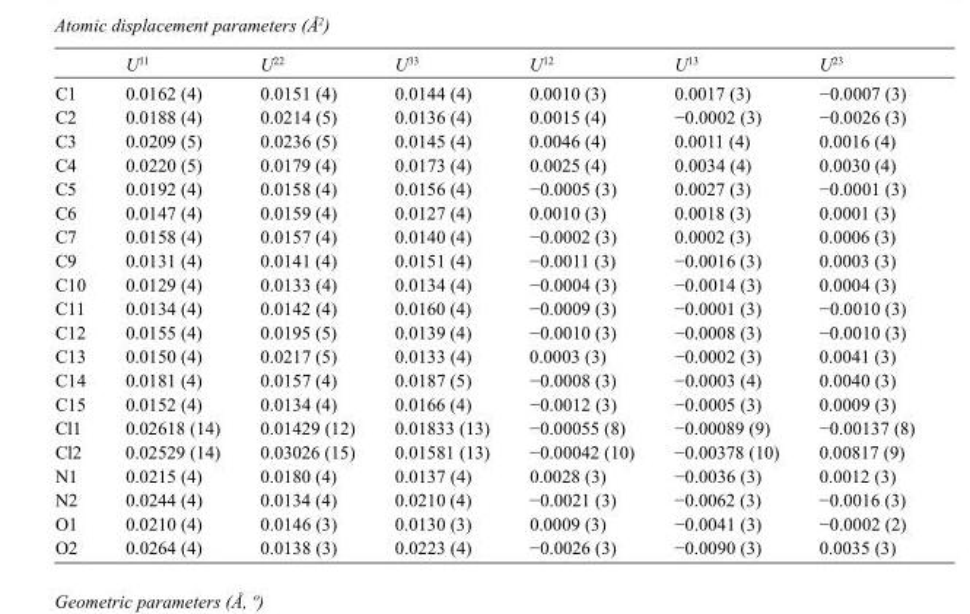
<table><thead><tr><td></td><td>U<sup>11</sup></td><td>U<sup>22</sup></td><td>U<sup>33</sup></td><td>U<sup>12</sup></td><td>U<sup>13</sup></td><td>U<sup>23</sup></td></tr></thead><tbody><tr><td>C1</td><td>0.0162 (4)</td><td>0.0151 (4)</td><td>0.0144 (4)</td><td>0.0010 (3)</td><td>0.0017 (3)</td><td>−0.0007 (3)</td></tr><tr><td>C2</td><td>0.0188 (4)</td><td>0.0214 (5)</td><td>0.0136 (4)</td><td>0.0015 (4)</td><td>−0.0002 (3)</td><td>−0.0026 (3)</td></tr><tr><td>C3</td><td>0.0209 (5)</td><td>0.0236 (5)</td><td>0.0145 (4)</td><td>0.0046 (4)</td><td>0.0011 (4)</td><td>0.0016 (4)</td></tr><tr><td>C4</td><td>0.0220 (5)</td><td>0.0179 (4)</td><td>0.0173 (4)</td><td>0.0025 (4)</td><td>0.0034 (4)</td><td>0.0030 (4)</td></tr><tr><td>C5</td><td>0.0192 (4)</td><td>0.0158 (4)</td><td>0.0156 (4)</td><td>−0.0005 (3)</td><td>0.0027 (3)</td><td>−0.0001 (3)</td></tr><tr><td>C6</td><td>0.0147 (4)</td><td>0.0159 (4)</td><td>0.0127 (4)</td><td>0.0010 (3)</td><td>0.0018 (3)</td><td>0.0001 (3)</td></tr><tr><td>C7</td><td>0.0158 (4)</td><td>0.0157 (4)</td><td>0.0140 (4)</td><td>−0.0002 (3)</td><td>0.0002 (3)</td><td>0.0006 (3)</td></tr><tr><td>C9</td><td>0.0131 (4)</td><td>0.0141 (4)</td><td>0.0151 (4)</td><td>−0.0011 (3)</td><td>−0.0016 (3)</td><td>0.0003 (3)</td></tr><tr><td>C10</td><td>0.0129 (4)</td><td>0.0133 (4)</td><td>0.0134 (4)</td><td>−0.0004 (3)</td><td>−0.0014 (3)</td><td>0.0004 (3)</td></tr><tr><td>C11</td><td>0.0134 (4)</td><td>0.0142 (4)</td><td>0.0160 (4)</td><td>−0.0009 (3)</td><td>−0.0001 (3)</td><td>−0.0010 (3)</td></tr><tr><td>C12</td><td>0.0155 (4)</td><td>0.0195 (5)</td><td>0.0139 (4)</td><td>−0.0010 (3)</td><td>−0.0008 (3)</td><td>−0.0010 (3)</td></tr><tr><td>C13</td><td>0.0150 (4)</td><td>0.0217 (5)</td><td>0.0133 (4)</td><td>0.0003 (3)</td><td>−0.0002 (3)</td><td>0.0041 (3)</td></tr><tr><td>C14</td><td>0.0181 (4)</td><td>0.0157 (4)</td><td>0.0187 (5)</td><td>−0.0008 (3)</td><td>−0.0003 (4)</td><td>0.0040 (3)</td></tr><tr><td>C15</td><td>0.0152 (4)</td><td>0.0134 (4)</td><td>0.0166 (4)</td><td>−0.0012 (3)</td><td>−0.0005 (3)</td><td>0.0009 (3)</td></tr><tr><td>Cl1</td><td>0.02618 (14)</td><td>0.01429 (12)</td><td>0.01833 (13)</td><td>−0.00055 (8)</td><td>−0.00089 (9)</td><td>−0.00137 (8)</td></tr><tr><td>Cl2</td><td>0.02529 (14)</td><td>0.03026 (15)</td><td>0.01581 (13)</td><td>−0.00042 (10)</td><td>−0.00378 (10)</td><td>0.00817 (9)</td></tr><tr><td>N1</td><td>0.0215 (4)</td><td>0.0180 (4)</td><td>0.0137 (4)</td><td>0.0028 (3)</td><td>−0.0036 (3)</td><td>0.0012 (3)</td></tr><tr><td>N2</td><td>0.0244 (4)</td><td>0.0134 (4)</td><td>0.0210 (4)</td><td>−0.0021 (3)</td><td>−0.0062 (3)</td><td>−0.0016 (3)</td></tr><tr><td>O1</td><td>0.0210 (4)</td><td>0.0146 (3)</td><td>0.0130 (3)</td><td>0.0009 (3)</td><td>−0.0041 (3)</td><td>−0.0002 (2)</td></tr><tr><td>O2</td><td>0.0264 (4)</td><td>0.0138 (3)</td><td>0.0223 (4)</td><td>−0.0026 (3)</td><td>−0.0090 (3)</td><td>0.0035 (3)</td></tr></tbody></table>